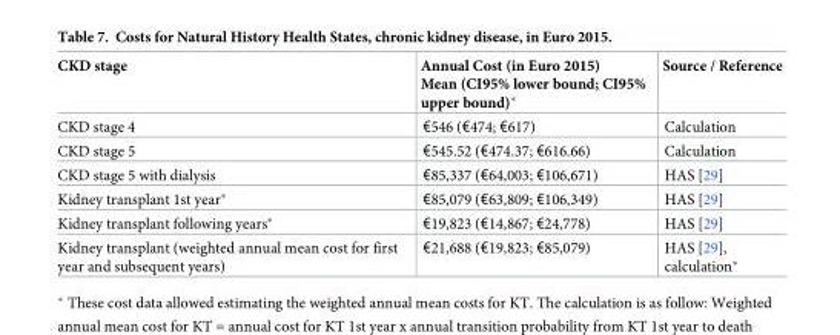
<table><thead><tr><td>CKD stage</td><td>Annual Cost (in Euro 2015) Mean (CI95% lower bound; CI95% upper bound)*</td><td>Source / Reference</td></tr></thead><tbody><tr><td>CKD stage 4</td><td>€546 (€474; €617)</td><td>Calculation</td></tr><tr><td>CKD stage 5</td><td>€545.52 (€474.37; €616.66)</td><td>Calculation</td></tr><tr><td>CKD stage 5 with dialysis</td><td>€85,337 (€64,003; €106,671)</td><td>HAS [29]</td></tr><tr><td>Kidney transplant 1st year*</td><td>€85,079 (€63,809; €106,349)</td><td>HAS [29]</td></tr><tr><td>Kidney transplant following years*</td><td>€19,823 (€14,867; €24,778)</td><td>HAS [29]</td></tr><tr><td>Kidney transplant (weighted annual mean cost for first year and subsequent years)</td><td>€21,688 (€19,823; €85,079)</td><td>HAS [29], calculation*</td></tr></tbody></table>